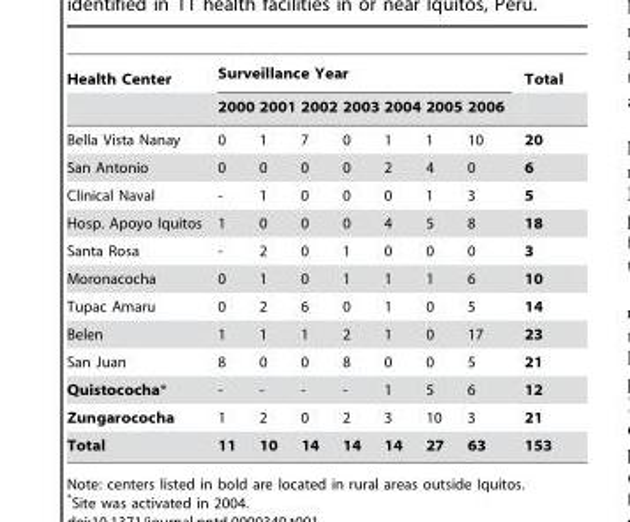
<table><thead><tr><td rowspan="2">Health Center</td><td colspan="7">Surveillance Year</td><td rowspan="2">Total</td></tr><tr><td>2000</td><td>2001</td><td>2002</td><td>2003</td><td>2004</td><td>2005</td><td>2006</td></tr></thead><tbody><tr><td>Bella Vista Nanay</td><td>0</td><td>1</td><td>7</td><td>0</td><td>1</td><td>1</td><td>10</td><td>20</td></tr><tr><td>San Antonio</td><td>0</td><td>0</td><td>0</td><td>0</td><td>2</td><td>4</td><td>0</td><td>6</td></tr><tr><td>Clinical Naval</td><td>-</td><td>1</td><td>0</td><td>0</td><td>0</td><td>1</td><td>3</td><td>5</td></tr><tr><td>Hosp. Apoyo Iquitos</td><td>1</td><td>0</td><td>0</td><td>0</td><td>4</td><td>5</td><td>8</td><td>18</td></tr><tr><td>Santa Rosa</td><td>-</td><td>2</td><td>0</td><td>1</td><td>0</td><td>0</td><td>0</td><td>3</td></tr><tr><td>Moronacocha</td><td>0</td><td>1</td><td>0</td><td>1</td><td>1</td><td>1</td><td>6</td><td>10</td></tr><tr><td>Tupac Amaru</td><td>0</td><td>2</td><td>6</td><td>0</td><td>1</td><td>0</td><td>5</td><td>14</td></tr><tr><td>Belen</td><td>1</td><td>1</td><td>1</td><td>2</td><td>1</td><td>0</td><td>17</td><td>23</td></tr><tr><td>San Juan</td><td>8</td><td>0</td><td>0</td><td>8</td><td>0</td><td>0</td><td>5</td><td>21</td></tr><tr><td>Quistococha*</td><td>-</td><td>-</td><td>-</td><td>-</td><td>1</td><td>5</td><td>6</td><td>12</td></tr><tr><td>Zungarococha</td><td>1</td><td>2</td><td>0</td><td>2</td><td>3</td><td>10</td><td>3</td><td>21</td></tr><tr><td>Total</td><td>11</td><td>10</td><td>14</td><td>14</td><td>14</td><td>27</td><td>63</td><td>153</td></tr></tbody></table>